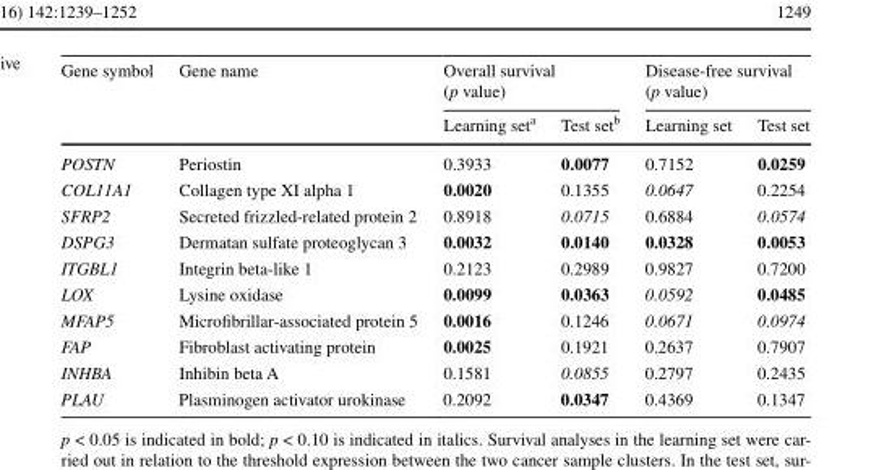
<table><thead><tr><td rowspan="2">Gene symbol</td><td rowspan="2">Gene name</td><td colspan="2">Overall survival (p value)</td><td colspan="2">Disease-free survival (p value)</td></tr><tr><td>Learning set<sup>a</sup></td><td>Test set<sup>b</sup></td><td>Learning set</td><td>Test set</td></tr></thead><tbody><tr><td>POSTN</td><td>Periostin</td><td>0.3933</td><td>0.0077</td><td>0.7152</td><td>0.0259</td></tr><tr><td>COL11A1</td><td>Collagen type XI alpha 1</td><td>0.0020</td><td>0.1355</td><td>0.0647</td><td>0.2254</td></tr><tr><td>SFRP2</td><td>Secreted frizzled-related protein 2</td><td>0.8918</td><td>0.0715</td><td>0.6884</td><td>0.0574</td></tr><tr><td>DSPG3</td><td>Dermatan sulfate proteoglycan 3</td><td>0.0032</td><td>0.0140</td><td>0.0328</td><td>0.0053</td></tr><tr><td>ITGBL1</td><td>Integrin beta-like 1</td><td>0.2123</td><td>0.2989</td><td>0.9827</td><td>0.7200</td></tr><tr><td>LOX</td><td>Lysine oxidase</td><td>0.0099</td><td>0.0363</td><td>0.0592</td><td>0.0485</td></tr><tr><td>MFAP5</td><td>Microfibrillar-associated protein 5</td><td>0.0016</td><td>0.1246</td><td>0.0671</td><td>0.0974</td></tr><tr><td>FAP</td><td>Fibroblast activating protein</td><td>0.0025</td><td>0.1921</td><td>0.2637</td><td>0.7907</td></tr><tr><td>INHBA</td><td>Inhibin beta A</td><td>0.1581</td><td>0.0855</td><td>0.2797</td><td>0.2435</td></tr><tr><td>PLAU</td><td>Plasminogen activator urokinase</td><td>0.2092</td><td>0.0347</td><td>0.4369</td><td>0.1347</td></tr></tbody></table>